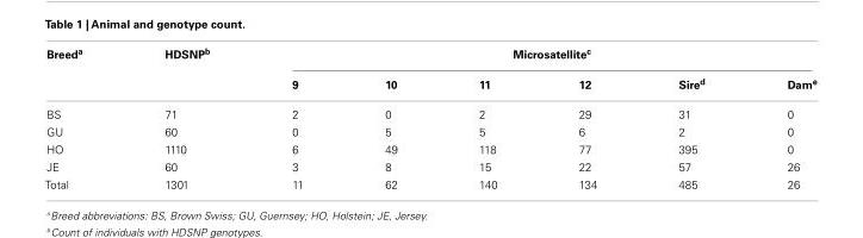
<table><thead><tr><td rowspan="2">Breed<sup>a</sup></td><td rowspan="2">HDSNP<sup>b</sup></td><td colspan="6">Microsatellite<sup>c</sup></td></tr><tr><td>9</td><td>10</td><td>11</td><td>12</td><td>Sire<sup>d</sup></td><td>Dam<sup>e</sup></td></tr></thead><tbody><tr><td>BS</td><td>71</td><td>2</td><td>0</td><td>2</td><td>29</td><td>31</td><td>0</td></tr><tr><td>GU</td><td>60</td><td>0</td><td>5</td><td>5</td><td>6</td><td>2</td><td>0</td></tr><tr><td>HO</td><td>1110</td><td>6</td><td>49</td><td>118</td><td>77</td><td>395</td><td>0</td></tr><tr><td>JE</td><td>60</td><td>3</td><td>8</td><td>15</td><td>22</td><td>57</td><td>26</td></tr><tr><td>Total</td><td>1301</td><td>11</td><td>62</td><td>140</td><td>134</td><td>485</td><td>26</td></tr></tbody></table>